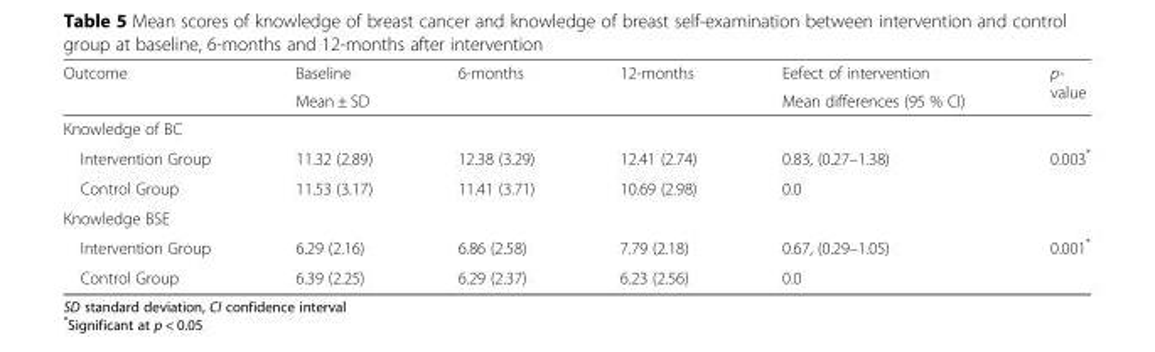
<table><thead><tr><td rowspan="2">Outcome</td><td>Baseline</td><td>6-months</td><td>12-months</td><td rowspan="2">Eefect of intervention Mean differences (95 % CI)</td><td rowspan="2">p- value</td></tr><tr><td colspan="3">Mean ± SD</td></tr></thead><tbody><tr><td colspan="6">Knowledge of BC</td></tr><tr><td>Intervention Group</td><td>11.32 (2.89)</td><td>12.38 (3.29)</td><td>12.41 (2.74)</td><td>0.83, (0.27–1.38)</td><td>0.003*</td></tr><tr><td>Control Group</td><td>11.53 (3.17)</td><td>11.41 (3.71)</td><td>10.69 (2.98)</td><td>0.0</td><td></td></tr><tr><td colspan="6">Knowledge BSE</td></tr><tr><td>Intervention Group</td><td>6.29 (2.16)</td><td>6.86 (2.58)</td><td>7.79 (2.18)</td><td>0.67, (0.29–1.05)</td><td>0.001*</td></tr><tr><td>Control Group</td><td>6.39 (2.25)</td><td>6.29 (2.37)</td><td>6.23 (2.56)</td><td>0.0</td><td></td></tr></tbody></table>